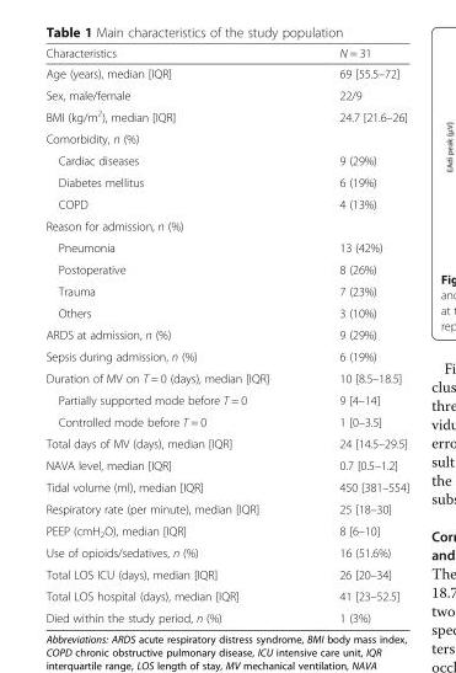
<table><thead><tr><td>Characteristics</td><td>N = 31</td></tr></thead><tbody><tr><td>Age (years), median [IQR]</td><td>69 [55.5–72]</td></tr><tr><td>Sex, male/female</td><td>22/9</td></tr><tr><td>BMI (kg/m<sup>2</sup>), median [IQR]</td><td>24.7 [21.6–26]</td></tr><tr><td colspan="2">Comorbidity, n (%)</td></tr><tr><td>Cardiac diseases</td><td>9 (29%)</td></tr><tr><td>Diabetes mellitus</td><td>6 (19%)</td></tr><tr><td>COPD</td><td>4 (13%)</td></tr><tr><td colspan="2">Reason for admission, n (%)</td></tr><tr><td>Pneumonia</td><td>13 (42%)</td></tr><tr><td>Postoperative</td><td>8 (26%)</td></tr><tr><td>Trauma</td><td>7 (23%)</td></tr><tr><td>Others</td><td>3 (10%)</td></tr><tr><td>ARDS at admission, n (%)</td><td>9 (29%)</td></tr><tr><td>Sepsis during admission, n (%)</td><td>6 (19%)</td></tr><tr><td>Duration of MV on T = 0 (days), median [IQR]</td><td>10 [8.5–18.5]</td></tr><tr><td>Partially supported mode before T = 0</td><td>9 [4–14]</td></tr><tr><td>Controlled mode before T = 0</td><td>1 [0–3.5]</td></tr><tr><td>Total days of MV (days), median [IQR]</td><td>24 [14.5–29.5]</td></tr><tr><td>NAVA level, median [IQR]</td><td>0.7 [0.5–1.2]</td></tr><tr><td>Tidal volume (ml), median [IQR]</td><td>450 [381–554]</td></tr><tr><td>Respiratory rate (per minute), median [IQR]</td><td>25 [18–30]</td></tr><tr><td>PEEP (cmH<sub>2</sub>O), median [IQR]</td><td>8 [6–10]</td></tr><tr><td>Use of opioids/sedatives, n (%)</td><td>16 (51.6%)</td></tr><tr><td>Total LOS ICU (days), median [IQR]</td><td>26 [20–34]</td></tr><tr><td>Total LOS hospital (days), median [IQR]</td><td>41 [23–52.5]</td></tr><tr><td>Died within the study period, n (%)</td><td>1 (3%)</td></tr></tbody></table>